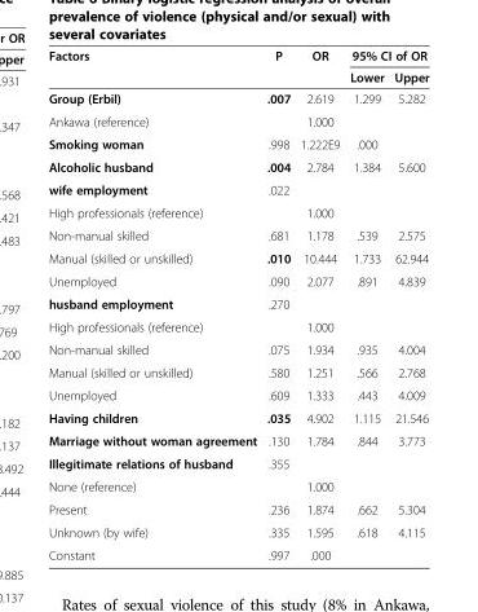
<table><thead><tr><td rowspan="2">Factors</td><td rowspan="2">P</td><td rowspan="2">OR</td><td colspan="2">95% CI of OR</td></tr><tr><td>Lower</td><td>Upper</td></tr></thead><tbody><tr><td>Group (Erbil)</td><td>.007</td><td>2.619</td><td>1.299</td><td>5.282</td></tr><tr><td>Ankawa (reference)</td><td></td><td>1.000</td><td></td><td></td></tr><tr><td>Smoking woman</td><td>.998</td><td>1.222E9</td><td>.000</td><td></td></tr><tr><td>Alcoholic husband</td><td>.004</td><td>2.784</td><td>1.384</td><td>5.600</td></tr><tr><td>wife employment</td><td>.022</td><td></td><td></td><td></td></tr><tr><td>High professionals (reference)</td><td></td><td>1.000</td><td></td><td></td></tr><tr><td>Non-manual skilled</td><td>.681</td><td>1.178</td><td>.539</td><td>2.575</td></tr><tr><td>Manual (skilled or unskilled)</td><td>.010</td><td>10.444</td><td>1.733</td><td>62.944</td></tr><tr><td>Unemployed</td><td>.090</td><td>2.077</td><td>.891</td><td>4.839</td></tr><tr><td>husband employment</td><td>.270</td><td></td><td></td><td></td></tr><tr><td>High professionals (reference)</td><td></td><td>1.000</td><td></td><td></td></tr><tr><td>Non-manual skilled</td><td>.075</td><td>1.934</td><td>.935</td><td>4.004</td></tr><tr><td>Manual (skilled or unskilled)</td><td>.580</td><td>1.251</td><td>.566</td><td>2.768</td></tr><tr><td>Unemployed</td><td>.609</td><td>1.333</td><td>.443</td><td>4.009</td></tr><tr><td>Having children</td><td>.035</td><td>4.902</td><td>1.115</td><td>21.546</td></tr><tr><td>Marriage without woman agreement</td><td>.130</td><td>1.784</td><td>.844</td><td>3.773</td></tr><tr><td>Illegitimate relations of husband</td><td>.355</td><td></td><td></td><td></td></tr><tr><td>None (reference)</td><td></td><td>1.000</td><td></td><td></td></tr><tr><td>Present</td><td>.236</td><td>1.874</td><td>.662</td><td>5.304</td></tr><tr><td>Unknown (by wife)</td><td>.335</td><td>1.595</td><td>.618</td><td>4.115</td></tr><tr><td>Constant</td><td>.997</td><td>.000</td><td></td><td></td></tr></tbody></table>